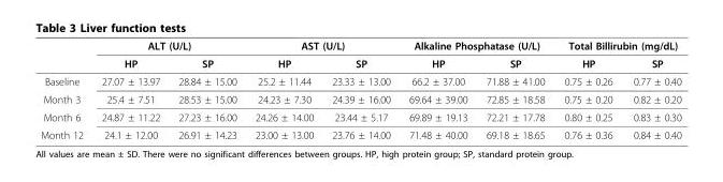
<table><thead><tr><td rowspan="2"></td><td colspan="2">ALT (U/L)</td><td colspan="2">AST (U/L)</td><td colspan="2">Alkaline Phosphatase (U/L)</td><td colspan="2">Total Billirubin (mg/dL)</td></tr><tr><td>HP</td><td>SP</td><td>HP</td><td>SP</td><td>HP</td><td>SP</td><td>HP</td><td>SP</td></tr></thead><tbody><tr><td>Baseline</td><td>27.07 ± 13.97</td><td>28.84 ± 15.00</td><td>25.2 ± 11.44</td><td>23.33 ± 13.00</td><td>66.2 ± 37.00</td><td>71.88 ± 41.00</td><td>0.75 ± 0.26</td><td>0.77 ± 0.40</td></tr><tr><td>Month 3</td><td>25.4 ± 7.51</td><td>28.53 ± 15.00</td><td>24.23 ± 7.30</td><td>24.39 ± 16.00</td><td>69.64 ± 39.00</td><td>72.85 ± 18.58</td><td>0.75 ± 0.20</td><td>0.82 ± 0.20</td></tr><tr><td>Month 6</td><td>24.87 ± 11.22</td><td>27.23 ± 16.00</td><td>24.26 ± 14.00</td><td>23.44 ± 5.17</td><td>69.89 ± 19.13</td><td>72.21 ± 17.78</td><td>0.80 ± 0.25</td><td>0.83 ± 0.30</td></tr><tr><td>Month 12</td><td>24.1 ± 12.00</td><td>26.91 ± 14.23</td><td>23.00 ± 13.00</td><td>23.76 ± 14.00</td><td>71.48 ± 40.00</td><td>69.18 ± 18.65</td><td>0.76 ± 0.36</td><td>0.84 ± 0.40</td></tr></tbody></table>